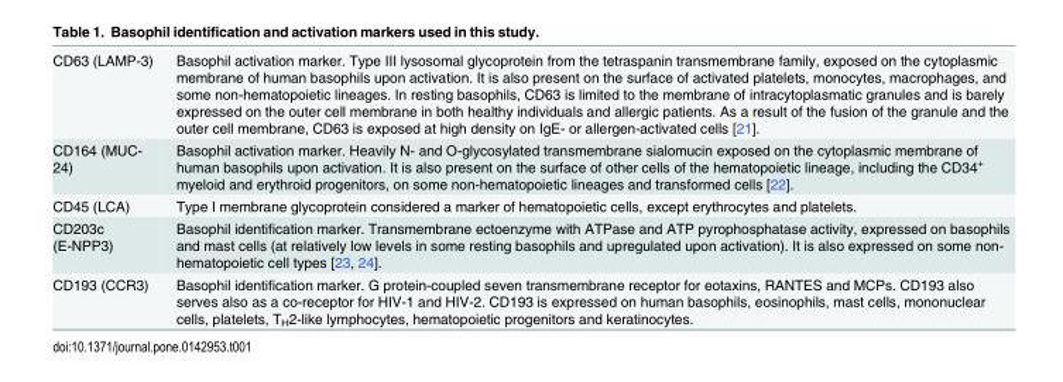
<table><tbody><tr><td>CD63 (LAMP-3)</td><td>Basophil activation marker. Type III lysosomal glycoprotein from the tetraspanin transmembrane family, exposed on the cytoplasmic membrane of human basophils upon activation. It is also present on the surface of activated platelets, monocytes, macrophages, and some non-hematopoietic lineages. In resting basophils, CD63 is limited to the membrane of intracytoplasmatic granules and is barely expressed on the outer cell membrane in both healthy individuals and allergic patients. As a result of the fusion of the granule and the outer cell membrane, CD63 is exposed at high density on IgE- or allergen-activated cells [21].</td></tr><tr><td>CD164 (MUC- 24)</td><td>Basophil activation marker. Heavily N- and O-glycosylated transmembrane sialomucin exposed on the cytoplasmic membrane of human basophils upon activation. It is also present on the surface of other cells of the hematopoietic lineage, including the CD34<sup>+</sup> myeloid and erythroid progenitors, on some non-hematopoietic lineages and transformed cells [22].</td></tr><tr><td>CD45 (LCA)</td><td>Type I membrane glycoprotein considered a marker of hematopoietic cells, except erythrocytes and platelets.</td></tr><tr><td>CD203c (E-NPP3)</td><td>Basophil identification marker. Transmembrane ectoenzyme with ATPase and ATP pyrophosphatase activity, expressed on basophils and mast cells (at relatively low levels in some resting basophils and upregulated upon activation). It is also expressed on some non- hematopoietic cell types [23, 24].</td></tr><tr><td>CD193 (CCR3)</td><td>Basophil identification marker. G protein-coupled seven transmembrane receptor for eotaxins, RANTES and MCPs. CD193 also serves also as a co-receptor for HIV-1 and HIV-2. CD193 is expressed on human basophils, eosinophils, mast cells, mononuclear cells, platelets, T<sub>H</sub>2-like lymphocytes, hematopoietic progenitors and keratinocytes.</td></tr></tbody></table>